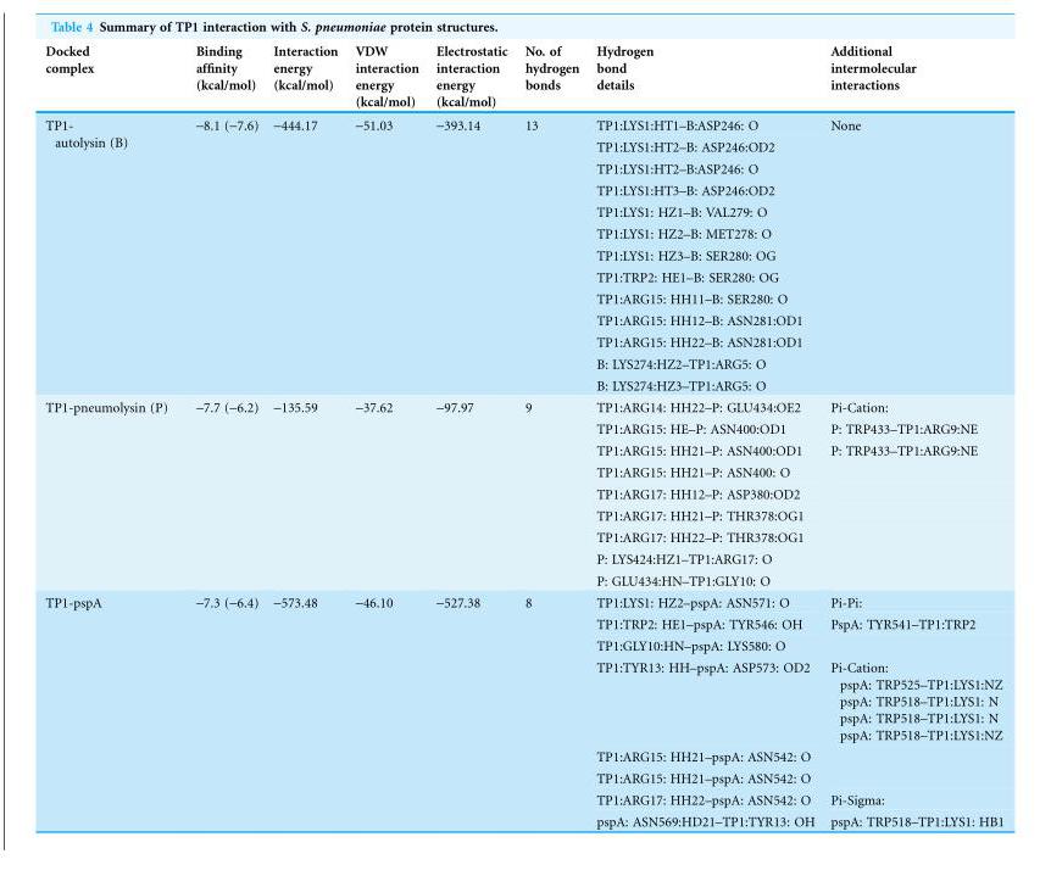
<table><thead><tr><td>Docked complex</td><td>Binding affinity (kcal/mol)</td><td>Interaction energy (kcal/mol)</td><td>VDW interaction energy (kcal/mol)</td><td>Electrostatic interaction energy (kcal/mol)</td><td>No. of hydrogen bonds</td><td>Hydrogen bond details</td><td>Additional intermolecular interactions</td></tr></thead><tbody><tr><td rowspan="13">TP1- autolysin (B)</td><td rowspan="13">-8.1 (-7.6)</td><td rowspan="13">-444.17</td><td rowspan="13">-51.03</td><td rowspan="13">-393.14</td><td rowspan="13">13</td><td>TP1:LYS1:HT1–B:ASP246: O</td><td rowspan="13">None</td></tr><tr><td>TP1:LYS1:HT2–B: ASP246:OD2</td></tr><tr><td>TP1:LYS1:HT2–B:ASP246: O</td></tr><tr><td>TP1:LYS1:HT3–B: ASP246:OD2</td></tr><tr><td>TP1:LYS1: HZ1–B: VAL279: O</td></tr><tr><td>TP1:LYS1: HZ2–B: MET278: O</td></tr><tr><td>TP1:LYS1: HZ3–B: SER280: OG</td></tr><tr><td>TP1:TRP2: HE1–B: SER280: OG</td></tr><tr><td>TP1:ARG15: HH11–B: SER280: O</td></tr><tr><td>TP1:ARG15: HH12–B: ASN281:OD1</td></tr><tr><td>TP1:ARG15: HH22–B: ASN281:OD1</td></tr><tr><td>B: LYS274:HZ2–TP1:ARG5: O</td></tr><tr><td>B: LYS274:HZ3–TP1:ARG5: O</td></tr><tr><td rowspan="9">TP1-pneumolysin (P)</td><td rowspan="9">-7.7 (-6.2)</td><td rowspan="9">-135.59</td><td rowspan="9">-37.62</td><td rowspan="9">-97.97</td><td rowspan="9">9</td><td>TP1:ARG14: HH22–P: GLU434:OE2</td><td>Pi-Cation:</td></tr><tr><td>TP1:ARG15: HE–P: ASN400:OD1</td><td>P: TRP433–TP1:ARG9:NE</td></tr><tr><td>TP1:ARG15: HH21–P: ASN400:OD1</td><td>P: TRP433–TP1:ARG9:NE</td></tr><tr><td>TP1:ARG15: HH21–P: ASN400: O</td><td></td></tr><tr><td>TP1:ARG17: HH12–P: ASP380:OD2</td><td></td></tr><tr><td>TP1:ARG17: HH21–P: THR378:OG1</td><td></td></tr><tr><td>TP1:ARG17: HH22–P: THR378:OG1</td><td></td></tr><tr><td>P: LYS424:HZ1–TP1:ARG17: O</td><td></td></tr><tr><td>P: GLU434:HN–TP1:GLY10: O</td><td></td></tr><tr><td rowspan="8">TP1-pspA</td><td rowspan="8">-7.3 (-6.4)</td><td rowspan="8">-573.48</td><td rowspan="8">-46.10</td><td rowspan="8">-527.38</td><td rowspan="8">8</td><td>TP1:LYS1: HZ2–pspA: ASN571: O</td><td>Pi-Pi:</td></tr><tr><td>TP1:TRP2: HE1–pspA: TYR546: OH</td><td>PspA: TYR541–TP1:TRP2</td></tr><tr><td>TP1:GLY10:HN–pspA: LYS580: O</td><td></td></tr><tr><td>TP1:TYR13: HH–pspA: ASP573: OD2</td><td>Pi-Cation: pspA: TRP525–TP1:LYS1:NZ pspA: TRP518–TP1:LYS1: N pspA: TRP518–TP1:LYS1: N pspA: TRP518–TP1:LYS1:NZ</td></tr><tr><td>TP1:ARG15: HH21–pspA: ASN542: O</td><td></td></tr><tr><td>TP1:ARG15: HH21–pspA: ASN542: O</td><td></td></tr><tr><td>TP1:ARG17: HH22–pspA: ASN542: O</td><td>Pi-Sigma:</td></tr><tr><td>pspA: ASN569:HD21–TP1:TYR13: OH</td><td>pspA: TRP518–TP1:LYS1: HB1</td></tr></tbody></table>